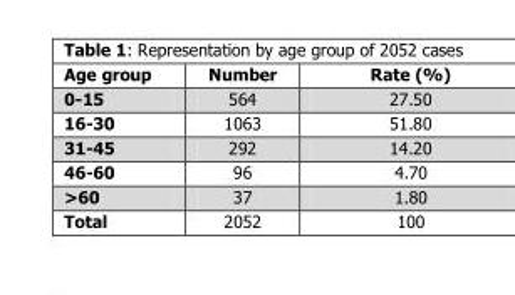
<table><thead><tr><td>Age group</td><td>Number</td><td>Rate (%)</td></tr></thead><tbody><tr><td>0-15</td><td>564</td><td>27.50</td></tr><tr><td>16-30</td><td>1063</td><td>51.80</td></tr><tr><td>31-45</td><td>292</td><td>14.20</td></tr><tr><td>46-60</td><td>96</td><td>4.70</td></tr><tr><td>&gt;60</td><td>37</td><td>1.80</td></tr><tr><td>Total</td><td>2052</td><td>100</td></tr></tbody></table>